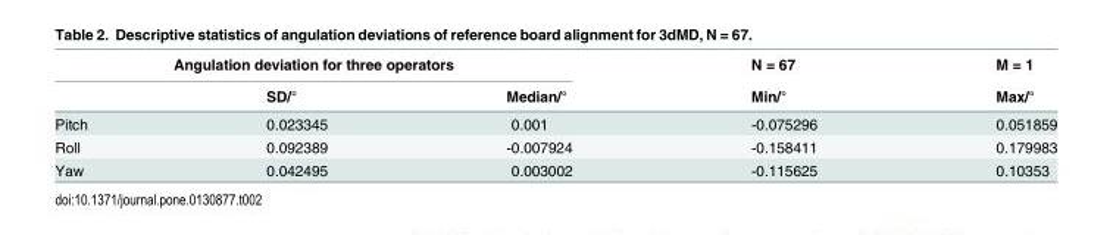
<table><thead><tr><td colspan="3">Angulation deviation for three operators</td><td rowspan="2">N = 67 Min/°</td><td rowspan="2">M = 1 Max/°</td></tr><tr><td></td><td>SD/°</td><td>Median/°</td></tr></thead><tbody><tr><td>Pitch</td><td>0.023345</td><td>0.001</td><td>-0.075296</td><td>0.051859</td></tr><tr><td>Roll</td><td>0.092389</td><td>-0.007924</td><td>-0.158411</td><td>0.179983</td></tr><tr><td>Yaw</td><td>0.042495</td><td>0.003002</td><td>-0.115625</td><td>0.10353</td></tr></tbody></table>